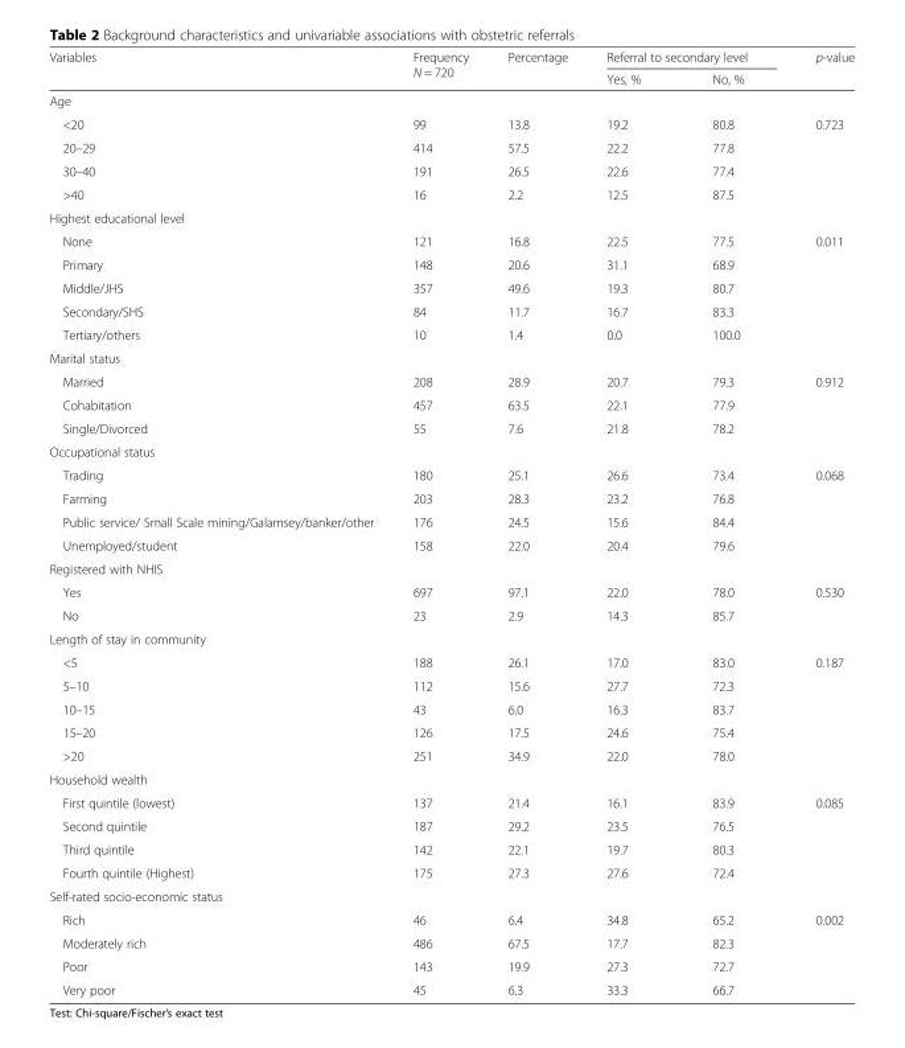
<table><thead><tr><td rowspan="2">Variables</td><td rowspan="2">Frequency N = 720</td><td rowspan="2">Percentage</td><td colspan="2">Referral to secondary level</td><td rowspan="2">p-value</td></tr><tr><td>Yes, %</td><td>No, %</td></tr></thead><tbody><tr><td colspan="6">Age</td></tr><tr><td>&lt;20</td><td>99</td><td>13.8</td><td>19.2</td><td>80.8</td><td>0.723</td></tr><tr><td>20–29</td><td>414</td><td>57.5</td><td>22.2</td><td>77.8</td><td></td></tr><tr><td>30–40</td><td>191</td><td>26.5</td><td>22.6</td><td>77.4</td><td></td></tr><tr><td>&gt;40</td><td>16</td><td>2.2</td><td>12.5</td><td>87.5</td><td></td></tr><tr><td colspan="6">Highest educational level</td></tr><tr><td>None</td><td>121</td><td>16.8</td><td>22.5</td><td>77.5</td><td>0.011</td></tr><tr><td>Primary</td><td>148</td><td>20.6</td><td>31.1</td><td>68.9</td><td></td></tr><tr><td>Middle/JHS</td><td>357</td><td>49.6</td><td>19.3</td><td>80.7</td><td></td></tr><tr><td>Secondary/SHS</td><td>84</td><td>11.7</td><td>16.7</td><td>83.3</td><td></td></tr><tr><td>Tertiary/others</td><td>10</td><td>1.4</td><td>0.0</td><td>100.0</td><td></td></tr><tr><td colspan="6">Marital status</td></tr><tr><td>Married</td><td>208</td><td>28.9</td><td>20.7</td><td>79.3</td><td>0.912</td></tr><tr><td>Cohabitation</td><td>457</td><td>63.5</td><td>22.1</td><td>77.9</td><td></td></tr><tr><td>Single/Divorced</td><td>55</td><td>7.6</td><td>21.8</td><td>78.2</td><td></td></tr><tr><td colspan="6">Occupational status</td></tr><tr><td>Trading</td><td>180</td><td>25.1</td><td>26.6</td><td>73.4</td><td>0.068</td></tr><tr><td>Farming</td><td>203</td><td>28.3</td><td>23.2</td><td>76.8</td><td></td></tr><tr><td>Public service/ Small Scale mining/Galamsey/banker/other</td><td>176</td><td>24.5</td><td>15.6</td><td>84.4</td><td></td></tr><tr><td>Unemployed/student</td><td>158</td><td>22.0</td><td>20.4</td><td>79.6</td><td></td></tr><tr><td colspan="6">Registered with NHIS</td></tr><tr><td>Yes</td><td>697</td><td>97.1</td><td>22.0</td><td>78.0</td><td>0.530</td></tr><tr><td>No</td><td>23</td><td>2.9</td><td>14.3</td><td>85.7</td><td></td></tr><tr><td colspan="6">Length of stay in community</td></tr><tr><td>&lt;5</td><td>188</td><td>26.1</td><td>17.0</td><td>83.0</td><td>0.187</td></tr><tr><td>5–10</td><td>112</td><td>15.6</td><td>27.7</td><td>72.3</td><td></td></tr><tr><td>10–15</td><td>43</td><td>6.0</td><td>16.3</td><td>83.7</td><td></td></tr><tr><td>15–20</td><td>126</td><td>17.5</td><td>24.6</td><td>75.4</td><td></td></tr><tr><td>&gt;20</td><td>251</td><td>34.9</td><td>22.0</td><td>78.0</td><td></td></tr><tr><td colspan="6">Household wealth</td></tr><tr><td>First quintile (lowest)</td><td>137</td><td>21.4</td><td>16.1</td><td>83.9</td><td>0.085</td></tr><tr><td>Second quintile</td><td>187</td><td>29.2</td><td>23.5</td><td>76.5</td><td></td></tr><tr><td>Third quintile</td><td>142</td><td>22.1</td><td>19.7</td><td>80.3</td><td></td></tr><tr><td>Fourth quintile (Highest)</td><td>175</td><td>27.3</td><td>27.6</td><td>72.4</td><td></td></tr><tr><td colspan="6">Self-rated socio-economic status</td></tr><tr><td>Rich</td><td>46</td><td>6.4</td><td>34.8</td><td>65.2</td><td>0.002</td></tr><tr><td>Moderately rich</td><td>486</td><td>67.5</td><td>17.7</td><td>82.3</td><td></td></tr><tr><td>Poor</td><td>143</td><td>19.9</td><td>27.3</td><td>72.7</td><td></td></tr><tr><td>Very poor</td><td>45</td><td>6.3</td><td>33.3</td><td>66.7</td><td></td></tr></tbody></table>